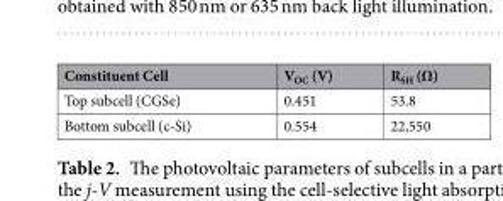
<table><thead><tr><td>Constituent Cell</td><td>V<sub>OC</sub> (V)</td><td>R<sub>SH</sub> (Ω)</td></tr></thead><tbody><tr><td>Top subcell (CGSe)</td><td>0.451</td><td>53.8</td></tr><tr><td>Bottom subcell (c-Si)</td><td>0.554</td><td>22,550</td></tr></tbody></table>